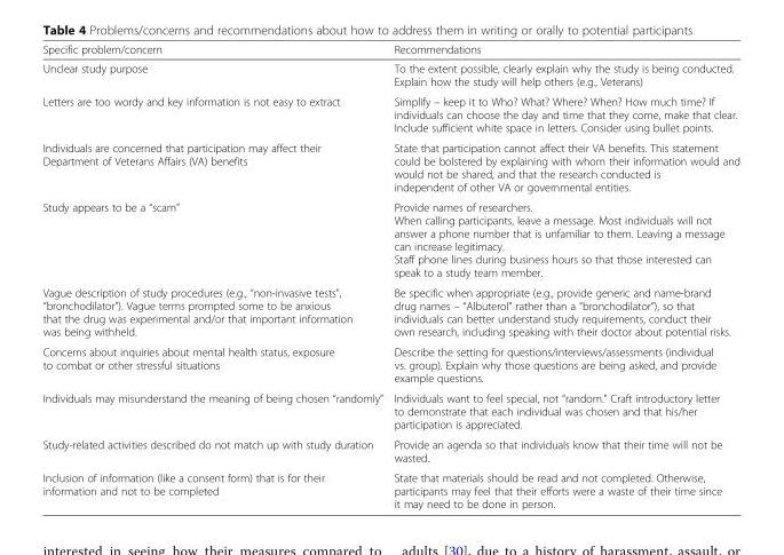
<table><thead><tr><td>Specific problem/concern</td><td>Recommendations</td></tr></thead><tbody><tr><td>Unclear study purpose</td><td>To the extent possible, clearly explain why the study is being conducted. Explain how the study will help others (e.g., Veterans)</td></tr><tr><td>Letters are too wordy and key information is not easy to extract</td><td>Simplify – keep it to Who? What? Where? When? How much time? If individuals can choose the day and time that they come, make that clear. Include sufficient white space in letters. Consider using bullet points.</td></tr><tr><td>Individuals are concerned that participation may affect their Department of Veterans Affairs (VA) benefits</td><td>State that participation cannot affect their VA benefits. This statement could be bolstered by explaining with whom their information would and would not be shared, and that the research conducted is independent of other VA or governmental entities.</td></tr><tr><td>Study appears to be a “scam”</td><td>Provide names of researchers. When calling participants, leave a message. Most individuals will not answer a phone number that is unfamiliar to them. Leaving a message can increase legitimacy. Staff phone lines during business hours so that those interested can speak to a study team member.</td></tr><tr><td>Vague description of study procedures (e.g., “non-invasive tests”, “bronchodilator”). Vague terms prompted some to be anxious that the drug was experimental and/or that important information was being withheld.</td><td>Be specific when appropriate (e.g., provide generic and name-brand drug names – “Albuterol” rather than a “bronchodilator”), so that individuals can better understand study requirements, conduct their own research, including speaking with their doctor about potential risks.</td></tr><tr><td>Concerns about inquiries about mental health status, exposure to combat or other stressful situations</td><td>Describe the setting for questions/interviews/assessments (individual vs. group). Explain why those questions are being asked, and provide example questions.</td></tr><tr><td>Individuals may misunderstand the meaning of being chosen “randomly”</td><td>Individuals want to feel special, not “random.” Craft introductory letter to demonstrate that each individual was chosen and that his/her participation is appreciated.</td></tr><tr><td>Study-related activities described do not match up with study duration</td><td>Provide an agenda so that individuals know that their time will not be wasted.</td></tr><tr><td>Inclusion of information (like a consent form) that is for their information and not to be completed</td><td>State that materials should be read and not completed. Otherwise, participants may feel that their efforts were a waste of their time since it may need to be done in person.</td></tr></tbody></table>